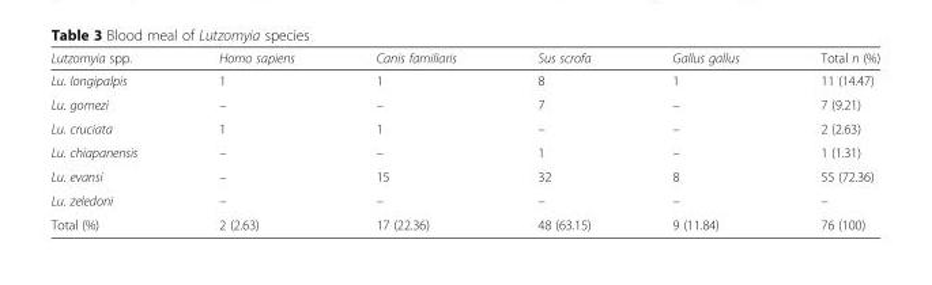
<table><thead><tr><td>Lutzomyia spp.</td><td>Homo sapiens</td><td>Canis familiaris</td><td>Sus scrofa</td><td>Gallus gallus</td><td>Total n (%)</td></tr></thead><tbody><tr><td>Lu. longipalpis</td><td>1</td><td>1</td><td>8</td><td>1</td><td>11 (14.47)</td></tr><tr><td>Lu. gomezi</td><td>–</td><td>–</td><td>7</td><td>–</td><td>7 (9.21)</td></tr><tr><td>Lu. cruciata</td><td>1</td><td>1</td><td>–</td><td>–</td><td>2 (2.63)</td></tr><tr><td>Lu. chiapanensis</td><td>–</td><td>–</td><td>1</td><td>–</td><td>1 (1.31)</td></tr><tr><td>Lu. evansi</td><td>–</td><td>15</td><td>32</td><td>8</td><td>55 (72.36)</td></tr><tr><td>Lu. zeledoni</td><td>–</td><td>–</td><td>–</td><td>–</td><td>–</td></tr><tr><td>Total (%)</td><td>2 (2.63)</td><td>17 (22.36)</td><td>48 (63.15)</td><td>9 (11.84)</td><td>76 (100)</td></tr></tbody></table>